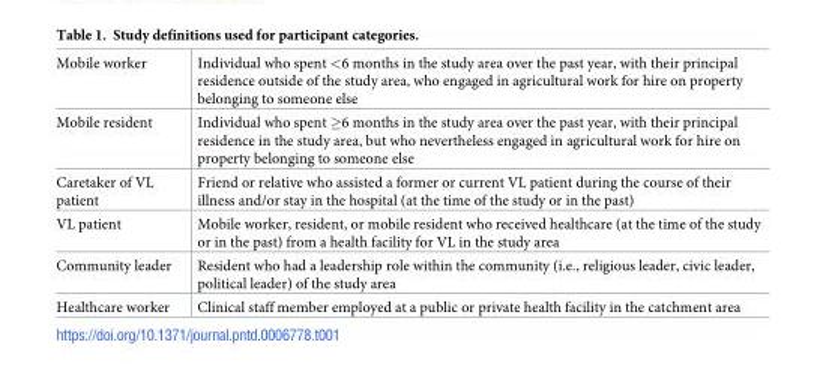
<table><tbody><tr><td>Mobile worker</td><td>Individual who spent &lt;6 months in the study area over the past year, with their principal residence outside of the study area, who engaged in agricultural work for hire on property belonging to someone else</td></tr><tr><td>Mobile resident</td><td>Individual who spent ≥6 months in the study area over the past year, with their principal residence in the study area, but who nevertheless engaged in agricultural work for hire on property belonging to someone else</td></tr><tr><td>Caretaker of VL patient</td><td>Friend or relative who assisted a former or current VL patient during the course of their illness and/or stay in the hospital (at the time of the study or in the past)</td></tr><tr><td>VL patient</td><td>Mobile worker, resident, or mobile resident who received healthcare (at the time of the study or in the past) from a health facility for VL in the study area</td></tr><tr><td>Community leader</td><td>Resident who had a leadership role within the community (i.e., religious leader, civic leader, political leader) of the study area</td></tr><tr><td>Healthcare worker</td><td>Clinical staff member employed at a public or private health facility in the catchment area</td></tr></tbody></table>